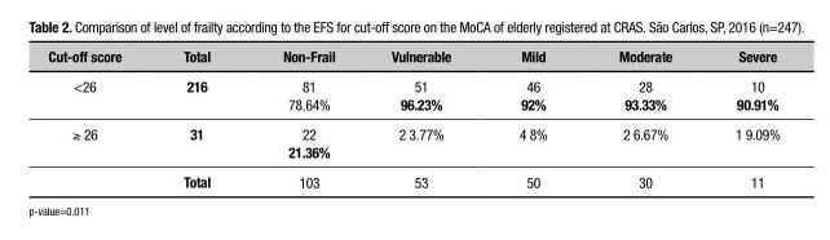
<table><thead><tr><td>Cut-off score</td><td>Total</td><td>Non-Frail</td><td>Vulnerable</td><td>Mild</td><td>Moderate</td><td>Severe</td></tr></thead><tbody><tr><td>&lt;26</td><td>216</td><td>81 78.64%</td><td>51 96.23%</td><td>46 92%</td><td>28 93.33%</td><td>10 90.91%</td></tr><tr><td rowspan="2">≥ 26</td><td>31</td><td>22 21.36%</td><td>2 3.77%</td><td>4 8%</td><td>2 6.67%</td><td>1 9.09%</td></tr><tr><td>Total</td><td>103</td><td>53</td><td>50</td><td>30</td><td>11</td></tr></tbody></table>